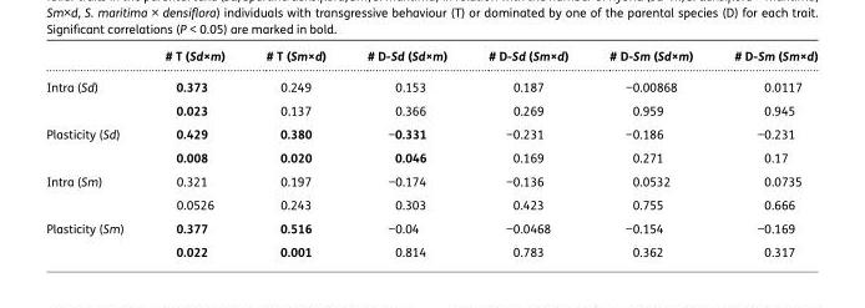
<table><thead><tr><td></td><td># T (Sd×m)</td><td># T (Sm×d)</td><td># D-Sd (Sd×m)</td><td># D-Sd (Sm×d)</td><td># D-Sm (Sd×m)</td><td># D-Sm (Sm×d)</td></tr></thead><tbody><tr><td rowspan="2">Intra (Sd)</td><td>0.373</td><td>0.249</td><td>0.153</td><td>0.187</td><td>−0.00868</td><td>0.0117</td></tr><tr><td>0.023</td><td>0.137</td><td>0.366</td><td>0.269</td><td>0.959</td><td>0.945</td></tr><tr><td rowspan="2">Plasticity (Sd)</td><td>0.429</td><td>0.380</td><td>−0.331</td><td>−0.231</td><td>−0.186</td><td>−0.231</td></tr><tr><td>0.008</td><td>0.020</td><td>0.046</td><td>0.169</td><td>0.271</td><td>0.17</td></tr><tr><td rowspan="2">Intra (Sm)</td><td>0.321</td><td>0.197</td><td>−0.174</td><td>−0.136</td><td>0.0532</td><td>0.0735</td></tr><tr><td>0.0526</td><td>0.243</td><td>0.303</td><td>0.423</td><td>0.755</td><td>0.666</td></tr><tr><td rowspan="2">Plasticity (Sm)</td><td>0.377</td><td>0.516</td><td>−0.04</td><td>−0.0468</td><td>−0.154</td><td>−0.169</td></tr><tr><td>0.022</td><td>0.001</td><td>0.814</td><td>0.783</td><td>0.362</td><td>0.317</td></tr></tbody></table>